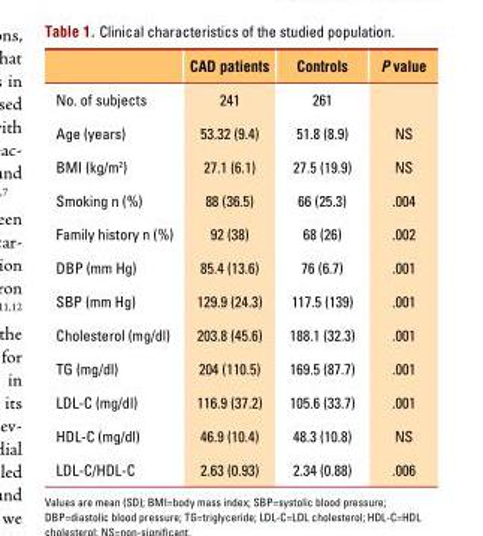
<table><thead><tr><td></td><td>CAD patients</td><td>Controls</td><td>P value</td></tr></thead><tbody><tr><td>No. of subjects</td><td>241</td><td>261</td><td></td></tr><tr><td>Age (years)</td><td>53.32 (9.4)</td><td>51.8 (8.9)</td><td>NS</td></tr><tr><td>BMI (kg/m<sup>2</sup>)</td><td>27.1 (6.1)</td><td>27.5 (19.9)</td><td>NS</td></tr><tr><td>Smoking n (%)</td><td>88 (36.5)</td><td>66 (25.3)</td><td>.004</td></tr><tr><td>Family history n (%)</td><td>92 (38)</td><td>68 (26)</td><td>.002</td></tr><tr><td>DBP (mm Hg)</td><td>85.4 (13.6)</td><td>76 (6.7)</td><td>.001</td></tr><tr><td>SBP (mm Hg)</td><td>129.9 (24.3)</td><td>117.5 (139)</td><td>.001</td></tr><tr><td>Cholesterol (mg/dl)</td><td>203.8 (45.6)</td><td>188.1 (32.3)</td><td>.001</td></tr><tr><td>TG (mg/dl)</td><td>204 (110.5)</td><td>169.5 (87.7)</td><td>.001</td></tr><tr><td>LDL-C (mg/dl)</td><td>116.9 (37.2)</td><td>105.6 (33.7)</td><td>.001</td></tr><tr><td>HDL-C (mg/dl)</td><td>46.9 (10.4)</td><td>48.3 (10.8)</td><td>NS</td></tr><tr><td>LDL-C/HDL-C</td><td>2.63 (0.93)</td><td>2.34 (0.88)</td><td>.006</td></tr></tbody></table>